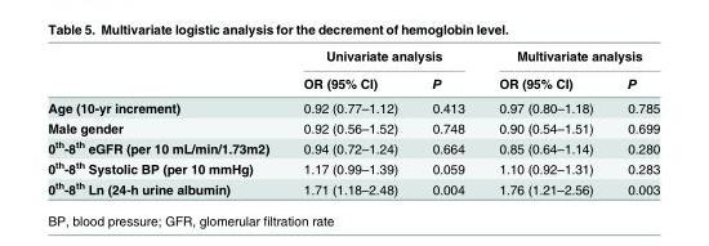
<table><thead><tr><td rowspan="2"></td><td colspan="2">Univariate analysis</td><td colspan="2">Multivariate analysis</td></tr><tr><td>OR (95% CI)</td><td>P</td><td>OR (95% CI)</td><td>P</td></tr></thead><tbody><tr><td>Age (10-yr increment)</td><td>0.92 (0.77–1.12)</td><td>0.413</td><td>0.97 (0.80–1.18)</td><td>0.785</td></tr><tr><td>Male gender</td><td>0.92 (0.56–1.52)</td><td>0.748</td><td>0.90 (0.54–1.51)</td><td>0.699</td></tr><tr><td>0<sup>th</sup>-8<sup>th</sup> eGFR (per 10 mL/min/1.73m2)</td><td>0.94 (0.72–1.24)</td><td>0.664</td><td>0.85 (0.64–1.14)</td><td>0.280</td></tr><tr><td>0<sup>th</sup>-8<sup>th</sup> Systolic BP (per 10 mmHg)</td><td>1.17 (0.99–1.39)</td><td>0.059</td><td>1.10 (0.92–1.31)</td><td>0.283</td></tr><tr><td>0<sup>th</sup>-8<sup>th</sup> Ln (24-h urine albumin)</td><td>1.71 (1.18–2.48)</td><td>0.004</td><td>1.76 (1.21–2.56)</td><td>0.003</td></tr></tbody></table>